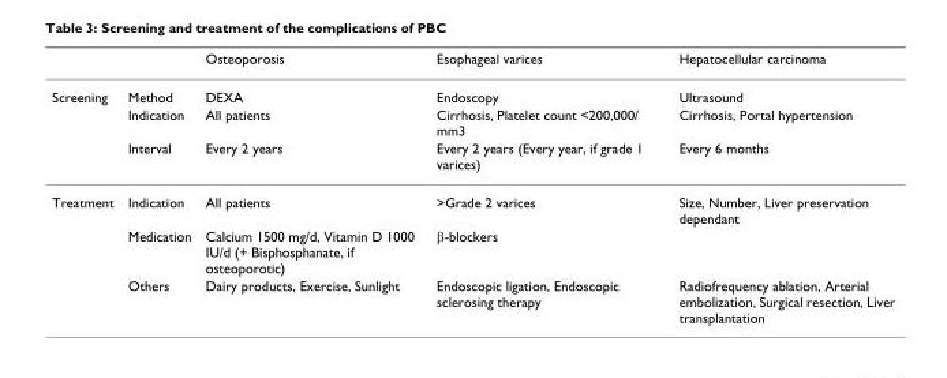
<table><thead><tr><td></td><td></td><td>Osteoporosis</td><td>Esophageal varices</td><td>Hepatocellular carcinoma</td></tr></thead><tbody><tr><td rowspan="3">Screening</td><td>Method</td><td>DEXA</td><td>Endoscopy</td><td>Ultrasound</td></tr><tr><td>Indication</td><td>All patients</td><td>Cirrhosis, Platelet count &lt;200,000/ mm3</td><td>Cirrhosis, Portal hypertension</td></tr><tr><td>Interval</td><td>Every 2 years</td><td>Every 2 years (Every year, if grade 1 varices)</td><td>Every 6 months</td></tr><tr><td rowspan="3">Treatment</td><td>Indication</td><td>All patients</td><td>&gt;Grade 2 varices</td><td>Size, Number, Liver preservation dependant</td></tr><tr><td>Medication</td><td>Calcium 1500 mg/d, Vitamin D 1000 IU/d (+ Bisphosphanate, if osteoporotic)</td><td>β-blockers</td><td></td></tr><tr><td>Others</td><td>Dairy products, Exercise, Sunlight</td><td>Endoscopic ligation, Endoscopic sclerosing therapy</td><td>Radiofrequency ablation, Arterial embolization, Surgical resection, Liver transplantation</td></tr></tbody></table>